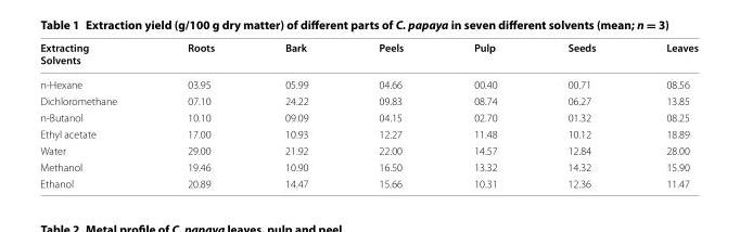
<table><thead><tr><td>Extracting Solvents</td><td>Roots</td><td>Bark</td><td>Peels</td><td>Pulp</td><td>Seeds</td><td>Leaves</td></tr></thead><tbody><tr><td>n‑Hexane</td><td>03.95</td><td>05.99</td><td>04.66</td><td>00.40</td><td>00.71</td><td>08.56</td></tr><tr><td>Dichloromethane</td><td>07.10</td><td>24.22</td><td>09.83</td><td>08.74</td><td>06.27</td><td>13.85</td></tr><tr><td>n‑Butanol</td><td>10.10</td><td>09.09</td><td>04.15</td><td>02.70</td><td>01.32</td><td>08.25</td></tr><tr><td>Ethyl acetate</td><td>17.00</td><td>10.93</td><td>12.27</td><td>11.48</td><td>10.12</td><td>18.89</td></tr><tr><td>Water</td><td>29.00</td><td>21.92</td><td>22.00</td><td>14.57</td><td>12.84</td><td>28.00</td></tr><tr><td>Methanol</td><td>19.46</td><td>10.90</td><td>16.50</td><td>13.32</td><td>14.32</td><td>15.90</td></tr><tr><td>Ethanol</td><td>20.89</td><td>14.47</td><td>15.66</td><td>10.31</td><td>12.36</td><td>11.47</td></tr></tbody></table>